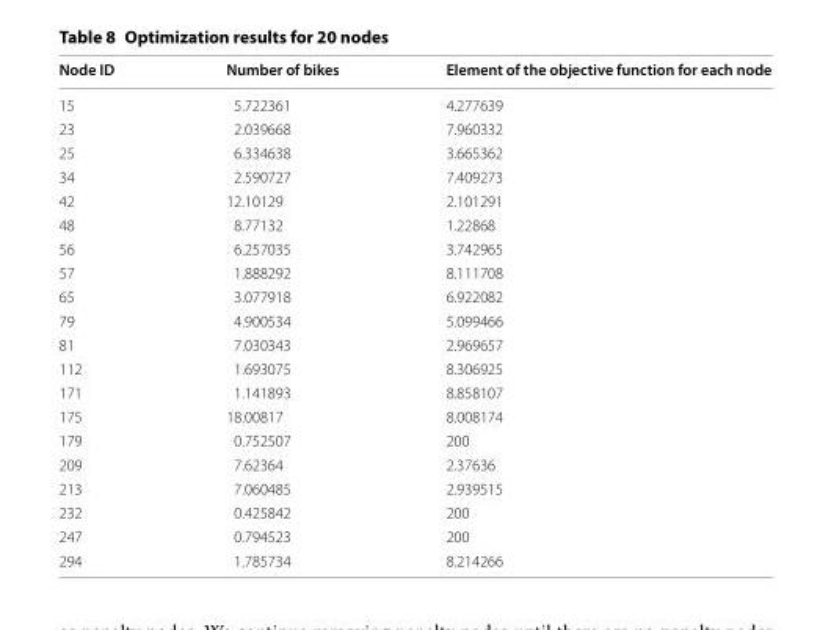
<table><thead><tr><td>Node ID</td><td>Number of bikes</td><td>Element of the objective function for each node</td></tr></thead><tbody><tr><td>15</td><td>5.722361</td><td>4.277639</td></tr><tr><td>23</td><td>2.039668</td><td>7.960332</td></tr><tr><td>25</td><td>6.334638</td><td>3.665362</td></tr><tr><td>34</td><td>2.590727</td><td>7.409273</td></tr><tr><td>42</td><td>12.10129</td><td>2.101291</td></tr><tr><td>48</td><td>8.77132</td><td>1.22868</td></tr><tr><td>56</td><td>6.257035</td><td>3.742965</td></tr><tr><td>57</td><td>1.888292</td><td>8.111708</td></tr><tr><td>65</td><td>3.077918</td><td>6.922082</td></tr><tr><td>79</td><td>4.900534</td><td>5.099466</td></tr><tr><td>81</td><td>7.030343</td><td>2.969657</td></tr><tr><td>112</td><td>1.693075</td><td>8.306925</td></tr><tr><td>171</td><td>1.141893</td><td>8.858107</td></tr><tr><td>175</td><td>18.00817</td><td>8.008174</td></tr><tr><td>179</td><td>0.752507</td><td>200</td></tr><tr><td>209</td><td>7.62364</td><td>2.37636</td></tr><tr><td>213</td><td>7.060485</td><td>2.939515</td></tr><tr><td>232</td><td>0.425842</td><td>200</td></tr><tr><td>247</td><td>0.794523</td><td>200</td></tr><tr><td>294</td><td>1.785734</td><td>8.214266</td></tr></tbody></table>